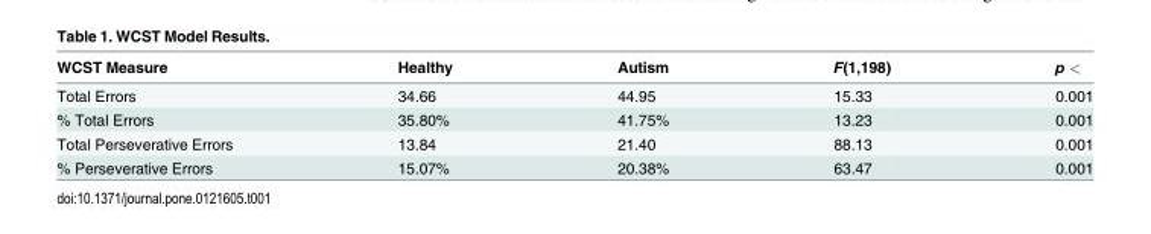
<table><thead><tr><td>WCST Measure</td><td>Healthy</td><td>Autism</td><td>F(1,198)</td><td>p &lt;</td></tr></thead><tbody><tr><td>Total Errors</td><td>34.66</td><td>44.95</td><td>15.33</td><td>0.001</td></tr><tr><td>% Total Errors</td><td>35.80%</td><td>41.75%</td><td>13.23</td><td>0.001</td></tr><tr><td>Total Perseverative Errors</td><td>13.84</td><td>21.40</td><td>88.13</td><td>0.001</td></tr><tr><td>% Perseverative Errors</td><td>15.07%</td><td>20.38%</td><td>63.47</td><td>0.001</td></tr></tbody></table>